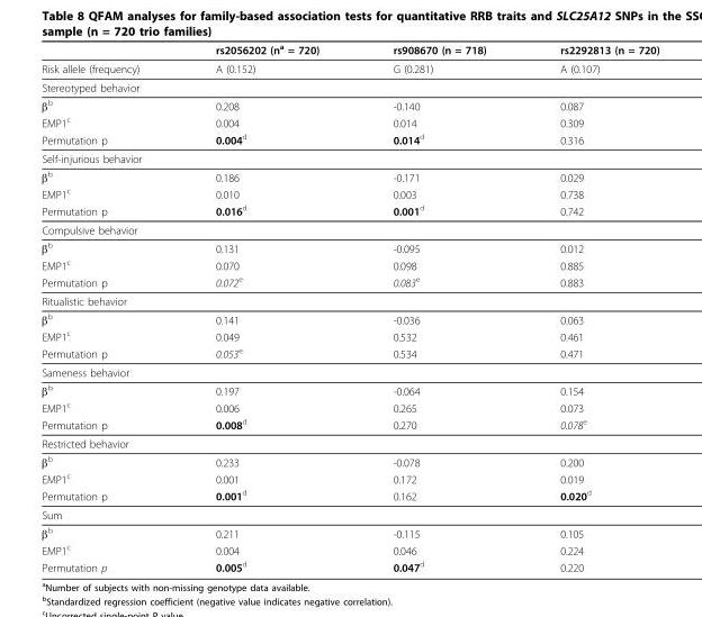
<table><thead><tr><td></td><td>rs2056202 (n<sup>a</sup> = 720)</td><td>rs908670 (n = 718)</td><td>rs2292813 (n = 720)</td></tr></thead><tbody><tr><td>Risk allele (frequency)</td><td>A (0.152)</td><td>G (0.281)</td><td>A (0.107)</td></tr><tr><td colspan="4">Stereotyped behavior</td></tr><tr><td>β<sup>b</sup></td><td>0.208</td><td>-0.140</td><td>0.087</td></tr><tr><td>EMP1<sup>c</sup></td><td>0.004</td><td>0.014</td><td>0.309</td></tr><tr><td>Permutation p</td><td>0.004<sup>d</sup></td><td>0.014<sup>d</sup></td><td>0.316</td></tr><tr><td colspan="4">Self-injurious behavior</td></tr><tr><td>β<sup>b</sup></td><td>0.186</td><td>-0.171</td><td>0.029</td></tr><tr><td>EMP1<sup>c</sup></td><td>0.010</td><td>0.003</td><td>0.738</td></tr><tr><td>Permutation p</td><td>0.016<sup>d</sup></td><td>0.001<sup>d</sup></td><td>0.742</td></tr><tr><td colspan="4">Compulsive behavior</td></tr><tr><td>β<sup>b</sup></td><td>0.131</td><td>-0.095</td><td>0.012</td></tr><tr><td>EMP1<sup>c</sup></td><td>0.070</td><td>0.098</td><td>0.885</td></tr><tr><td>Permutation p</td><td>0.072<sup>e</sup></td><td>0.083<sup>e</sup></td><td>0.883</td></tr><tr><td colspan="4">Ritualistic behavior</td></tr><tr><td>β<sup>b</sup></td><td>0.141</td><td>-0.036</td><td>0.063</td></tr><tr><td>EMP1<sup>c</sup></td><td>0.049</td><td>0.532</td><td>0.461</td></tr><tr><td>Permutation p</td><td>0.053<sup>e</sup></td><td>0.534</td><td>0.471</td></tr><tr><td colspan="4">Sameness behavior</td></tr><tr><td>β<sup>b</sup></td><td>0.197</td><td>-0.064</td><td>0.154</td></tr><tr><td>EMP1<sup>c</sup></td><td>0.006</td><td>0.265</td><td>0.073</td></tr><tr><td>Permutation p</td><td>0.008<sup>d</sup></td><td>0.270</td><td>0.078<sup>e</sup></td></tr><tr><td colspan="4">Restricted behavior</td></tr><tr><td>β<sup>b</sup></td><td>0.233</td><td>-0.078</td><td>0.200</td></tr><tr><td>EMP1<sup>c</sup></td><td>0.001</td><td>0.172</td><td>0.019</td></tr><tr><td>Permutation p</td><td>0.001<sup>d</sup></td><td>0.162</td><td>0.020<sup>d</sup></td></tr><tr><td colspan="4">Sum</td></tr><tr><td>β<sup>b</sup></td><td>0.211</td><td>-0.115</td><td>0.105</td></tr><tr><td>EMP1<sup>c</sup></td><td>0.004</td><td>0.046</td><td>0.224</td></tr><tr><td>Permutation p</td><td>0.005<sup>d</sup></td><td>0.047<sup>d</sup></td><td>0.220</td></tr></tbody></table>